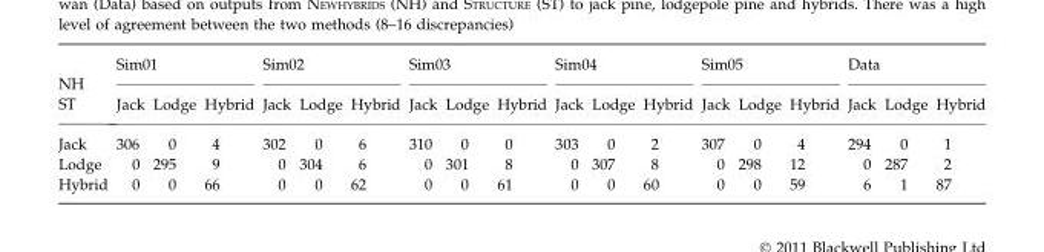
<table><thead><tr><td rowspan="2">NH ST</td><td colspan="3">Sim01</td><td colspan="3">Sim02</td><td colspan="3">Sim03</td><td colspan="3">Sim04</td><td colspan="3">Sim05</td><td colspan="3">Data</td></tr><tr><td>Jack</td><td>Lodge</td><td>Hybrid</td><td>Jack</td><td>Lodge</td><td>Hybrid</td><td>Jack</td><td>Lodge</td><td>Hybrid</td><td>Jack</td><td>Lodge</td><td>Hybrid</td><td>Jack</td><td>Lodge</td><td>Hybrid</td><td>Jack</td><td>Lodge</td><td>Hybrid</td></tr></thead><tbody><tr><td>Jack</td><td>306</td><td>0</td><td>4</td><td>302</td><td>0</td><td>6</td><td>310</td><td>0</td><td>0</td><td>303</td><td>0</td><td>2</td><td>307</td><td>0</td><td>4</td><td>294</td><td>0</td><td>1</td></tr><tr><td>Lodge</td><td>0</td><td>295</td><td>9</td><td>0</td><td>304</td><td>6</td><td>0</td><td>301</td><td>8</td><td>0</td><td>307</td><td>8</td><td>0</td><td>298</td><td>12</td><td>0</td><td>287</td><td>2</td></tr><tr><td>Hybrid</td><td>0</td><td>0</td><td>66</td><td>0</td><td>0</td><td>62</td><td>0</td><td>0</td><td>61</td><td>0</td><td>0</td><td>60</td><td>0</td><td>0</td><td>59</td><td>6</td><td>1</td><td>87</td></tr></tbody></table>